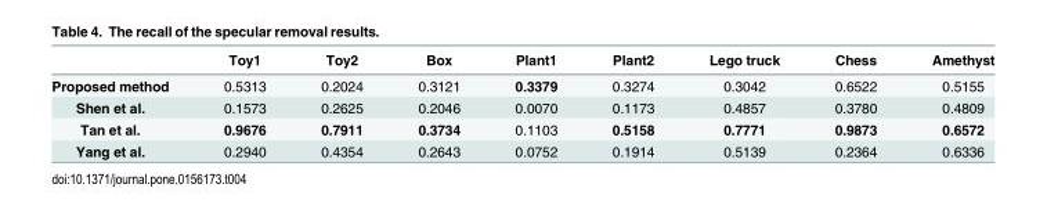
<table><thead><tr><td></td><td>Toy1</td><td>Toy2</td><td>Box</td><td>Plant1</td><td>Plant2</td><td>Lego truck</td><td>Chess</td><td>Amethyst</td></tr></thead><tbody><tr><td>Proposed method</td><td>0.5313</td><td>0.2024</td><td>0.3121</td><td>0.3379</td><td>0.3274</td><td>0.3042</td><td>0.6522</td><td>0.5155</td></tr><tr><td>Shen et al.</td><td>0.1573</td><td>0.2625</td><td>0.2046</td><td>0.0070</td><td>0.1173</td><td>0.4857</td><td>0.3780</td><td>0.4809</td></tr><tr><td>Tan et al.</td><td>0.9676</td><td>0.7911</td><td>0.3734</td><td>0.1103</td><td>0.5158</td><td>0.7771</td><td>0.9873</td><td>0.6572</td></tr><tr><td>Yang et al.</td><td>0.2940</td><td>0.4354</td><td>0.2643</td><td>0.0752</td><td>0.1914</td><td>0.5139</td><td>0.2364</td><td>0.6336</td></tr></tbody></table>